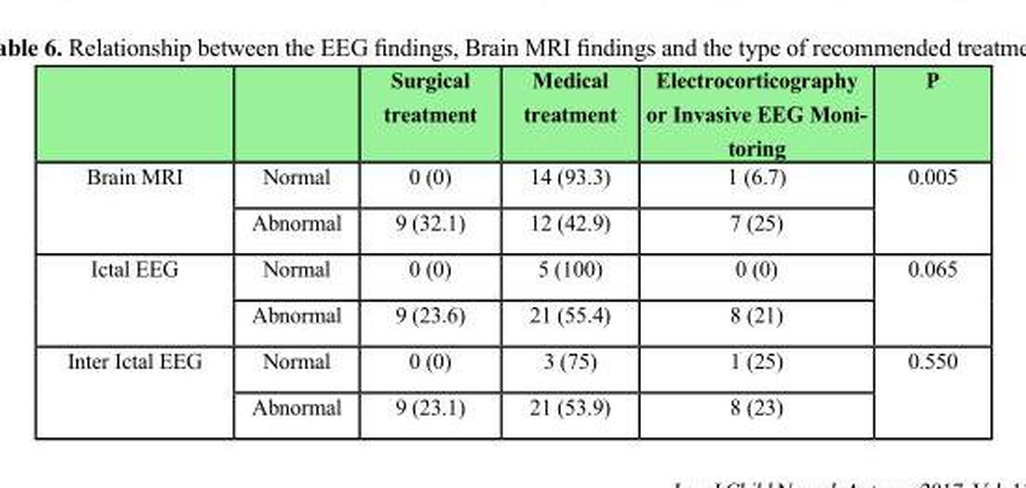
<table><thead><tr><td></td><td></td><td>Surgical treatment</td><td>Medical treatment</td><td>Electrocorticography or Invasive EEG Moni- toring</td><td>P</td></tr></thead><tbody><tr><td rowspan="2">Brain MRI</td><td>Normal</td><td>0 (0)</td><td>14 (93.3)</td><td>1 (6.7)</td><td rowspan="2">0.005</td></tr><tr><td>Abnormal</td><td>9 (32.1)</td><td>12 (42.9)</td><td>7 (25)</td></tr><tr><td rowspan="2">Ictal EEG</td><td>Normal</td><td>0 (0)</td><td>5 (100)</td><td>0 (0)</td><td rowspan="2">0.065</td></tr><tr><td>Abnormal</td><td>9 (23.6)</td><td>21 (55.4)</td><td>8 (21)</td></tr><tr><td rowspan="2">Inter Ictal EEG</td><td>Normal</td><td>0 (0)</td><td>3 (75)</td><td>1 (25)</td><td rowspan="2">0.550</td></tr><tr><td>Abnormal</td><td>9 (23.1)</td><td>21 (53.9)</td><td>8 (23)</td></tr></tbody></table>